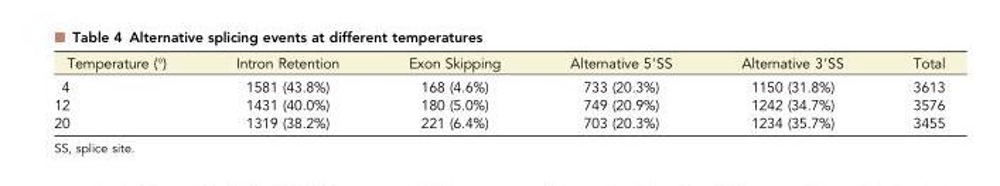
<table><thead><tr><td>Temperature (°)</td><td>Intron Retention</td><td>Exon Skipping</td><td>Alternative 5′SS</td><td>Alternative 3′SS</td><td>Total</td></tr></thead><tbody><tr><td>4</td><td>1581 (43.8%)</td><td>168 (4.6%)</td><td>733 (20.3%)</td><td>1150 (31.8%)</td><td>3613</td></tr><tr><td>12</td><td>1431 (40.0%)</td><td>180 (5.0%)</td><td>749 (20.9%)</td><td>1242 (34.7%)</td><td>3576</td></tr><tr><td>20</td><td>1319 (38.2%)</td><td>221 (6.4%)</td><td>703 (20.3%)</td><td>1234 (35.7%)</td><td>3455</td></tr></tbody></table>